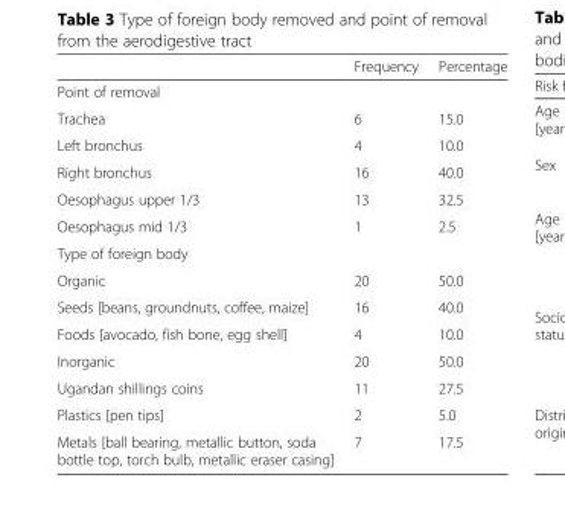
<table><thead><tr><td></td><td>Frequency</td><td>Percentage</td></tr></thead><tbody><tr><td colspan="3">Point of removal</td></tr><tr><td>Trachea</td><td>6</td><td>15.0</td></tr><tr><td>Left bronchus</td><td>4</td><td>10.0</td></tr><tr><td>Right bronchus</td><td>16</td><td>40.0</td></tr><tr><td>Oesophagus upper 1/3</td><td>13</td><td>32.5</td></tr><tr><td>Oesophagus mid 1/3</td><td>1</td><td>2.5</td></tr><tr><td colspan="3">Type of foreign body</td></tr><tr><td>Organic</td><td>20</td><td>50.0</td></tr><tr><td>Seeds [beans, groundnuts, coffee, maize]</td><td>16</td><td>40.0</td></tr><tr><td>Foods [avocado, fish bone, egg shell]</td><td>4</td><td>10.0</td></tr><tr><td>Inorganic</td><td>20</td><td>50.0</td></tr><tr><td>Ugandan shillings coins</td><td>11</td><td>27.5</td></tr><tr><td>Plastics [pen tips]</td><td>2</td><td>5.0</td></tr><tr><td>Metals [ball bearing, metallic button, soda bottle top, torch bulb, metallic eraser casing]</td><td>7</td><td>17.5</td></tr></tbody></table>